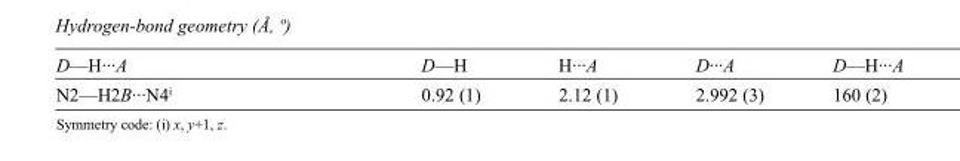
<table><tbody><tr><td>D—H···A</td><td>D—H</td><td>H···A</td><td>D···A</td><td>D—H···A</td></tr><tr><td>N2—H2B···N4<sup>i</sup></td><td>0.92 (1)</td><td>2.12 (1)</td><td>2.992 (3)</td><td>160 (2)</td></tr></tbody></table>